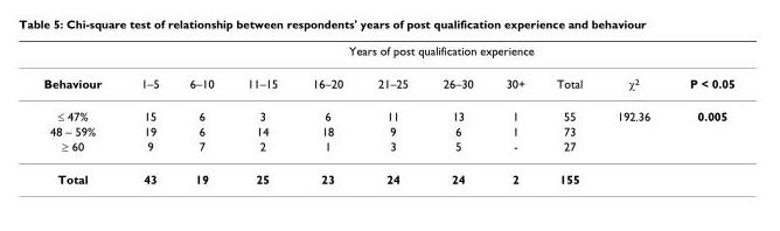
<table><thead><tr><td rowspan="2">Behaviour</td><td colspan="10">Years of post qualification experience</td></tr><tr><td>1–5</td><td>6–10</td><td>11–15</td><td>16–20</td><td>21–25</td><td>26–30</td><td>30+</td><td>Total</td><td>χ<sup>2</sup></td><td>P &lt; 0.05</td></tr></thead><tbody><tr><td>≤ 47%</td><td>15</td><td>6</td><td>3</td><td>6</td><td>11</td><td>13</td><td>1</td><td>55</td><td>192.36</td><td>0.005</td></tr><tr><td>48 – 59%</td><td>19</td><td>6</td><td>14</td><td>18</td><td>9</td><td>6</td><td>1</td><td>73</td><td></td><td></td></tr><tr><td>≥ 60</td><td>9</td><td>7</td><td>2</td><td>1</td><td>3</td><td>5</td><td>-</td><td>27</td><td></td><td></td></tr><tr><td>Total</td><td>43</td><td>19</td><td>25</td><td>23</td><td>24</td><td>24</td><td>2</td><td>155</td><td></td><td></td></tr></tbody></table>